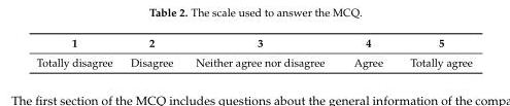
<table><thead><tr><td>1</td><td>2</td><td>3</td><td>4</td><td>5</td></tr></thead><tbody><tr><td>Totally disagree</td><td>Disagree</td><td>Neither agree nor disagree</td><td>Agree</td><td>Totally agree</td></tr></tbody></table>